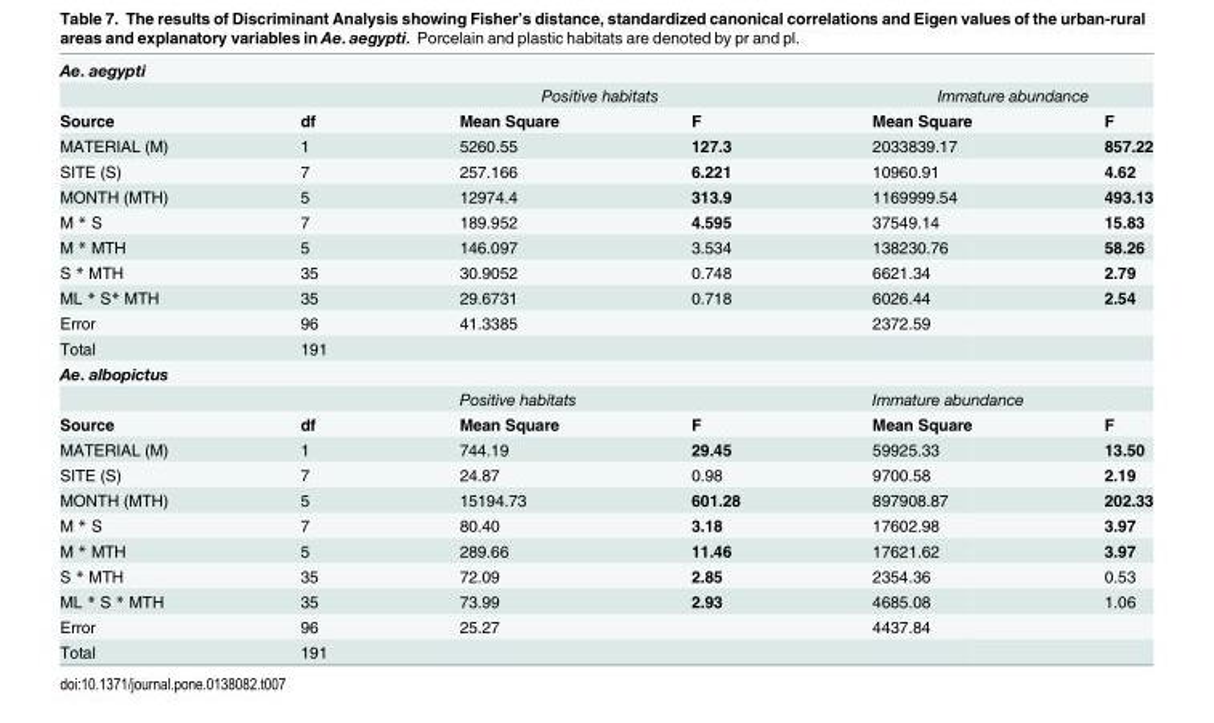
<table><tbody><tr><td colspan="6">Ae. aegypti</td></tr><tr><td></td><td></td><td colspan="2">Positive habitats</td><td colspan="2">Immature abundance</td></tr><tr><td>Source</td><td>df</td><td>Mean Square</td><td>F</td><td>Mean Square</td><td>F</td></tr><tr><td>MATERIAL (M)</td><td>1</td><td>5260.55</td><td>127.3</td><td>2033839.17</td><td>857.22</td></tr><tr><td>SITE (S)</td><td>7</td><td>257.166</td><td>6.221</td><td>10960.91</td><td>4.62</td></tr><tr><td>MONTH (MTH)</td><td>5</td><td>12974.4</td><td>313.9</td><td>1169999.54</td><td>493.13</td></tr><tr><td>M * S</td><td>7</td><td>189.952</td><td>4.595</td><td>37549.14</td><td>15.83</td></tr><tr><td>M * MTH</td><td>5</td><td>146.097</td><td>3.534</td><td>138230.76</td><td>58.26</td></tr><tr><td>S * MTH</td><td>35</td><td>30.9052</td><td>0.748</td><td>6621.34</td><td>2.79</td></tr><tr><td>ML * S* MTH</td><td>35</td><td>29.6731</td><td>0.718</td><td>6026.44</td><td>2.54</td></tr><tr><td>Error</td><td>96</td><td>41.3385</td><td></td><td>2372.59</td><td></td></tr><tr><td>Total</td><td>191</td><td></td><td></td><td></td><td></td></tr><tr><td colspan="6">Ae. albopictus</td></tr><tr><td></td><td></td><td colspan="2">Positive habitats</td><td colspan="2">Immature abundance</td></tr><tr><td>Source</td><td>df</td><td>Mean Square</td><td>F</td><td>Mean Square</td><td>F</td></tr><tr><td>MATERIAL (M)</td><td>1</td><td>744.19</td><td>29.45</td><td>59925.33</td><td>13.50</td></tr><tr><td>SITE (S)</td><td>7</td><td>24.87</td><td>0.98</td><td>9700.58</td><td>2.19</td></tr><tr><td>MONTH (MTH)</td><td>5</td><td>15194.73</td><td>601.28</td><td>897908.87</td><td>202.33</td></tr><tr><td>M * S</td><td>7</td><td>80.40</td><td>3.18</td><td>17602.98</td><td>3.97</td></tr><tr><td>M * MTH</td><td>5</td><td>289.66</td><td>11.46</td><td>17621.62</td><td>3.97</td></tr><tr><td>S * MTH</td><td>35</td><td>72.09</td><td>2.85</td><td>2354.36</td><td>0.53</td></tr><tr><td>ML * S * MTH</td><td>35</td><td>73.99</td><td>2.93</td><td>4685.08</td><td>1.06</td></tr><tr><td>Error</td><td>96</td><td>25.27</td><td></td><td>4437.84</td><td></td></tr><tr><td>Total</td><td>191</td><td></td><td></td><td></td><td></td></tr></tbody></table>